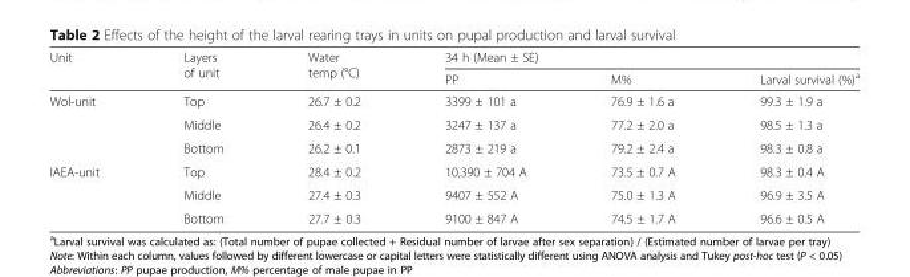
<table><thead><tr><td rowspan="2">Unit</td><td rowspan="2">Layers of unit</td><td rowspan="2">Water temp (°C)</td><td colspan="3">34 h (Mean ± SE)</td></tr><tr><td>PP</td><td>M%</td><td>Larval survival (%)<sup>a</sup></td></tr></thead><tbody><tr><td rowspan="3">Wol-unit</td><td>Top</td><td>26.7 ± 0.2</td><td>3399 ± 101 a</td><td>76.9 ± 1.6 a</td><td>99.3 ± 1.9 a</td></tr><tr><td>Middle</td><td>26.4 ± 0.2</td><td>3247 ± 137 a</td><td>77.2 ± 2.0 a</td><td>98.5 ± 1.3 a</td></tr><tr><td>Bottom</td><td>26.2 ± 0.1</td><td>2873 ± 219 a</td><td>79.2 ± 2.4 a</td><td>98.3 ± 0.8 a</td></tr><tr><td rowspan="3">IAEA-unit</td><td>Top</td><td>28.4 ± 0.2</td><td>10,390 ± 704 A</td><td>73.5 ± 0.7 A</td><td>98.3 ± 0.4 A</td></tr><tr><td>Middle</td><td>27.4 ± 0.3</td><td>9407 ± 552 A</td><td>75.0 ± 1.3 A</td><td>96.9 ± 3.5 A</td></tr><tr><td>Bottom</td><td>27.7 ± 0.3</td><td>9100 ± 847 A</td><td>74.5 ± 1.7 A</td><td>96.6 ± 0.5 A</td></tr></tbody></table>